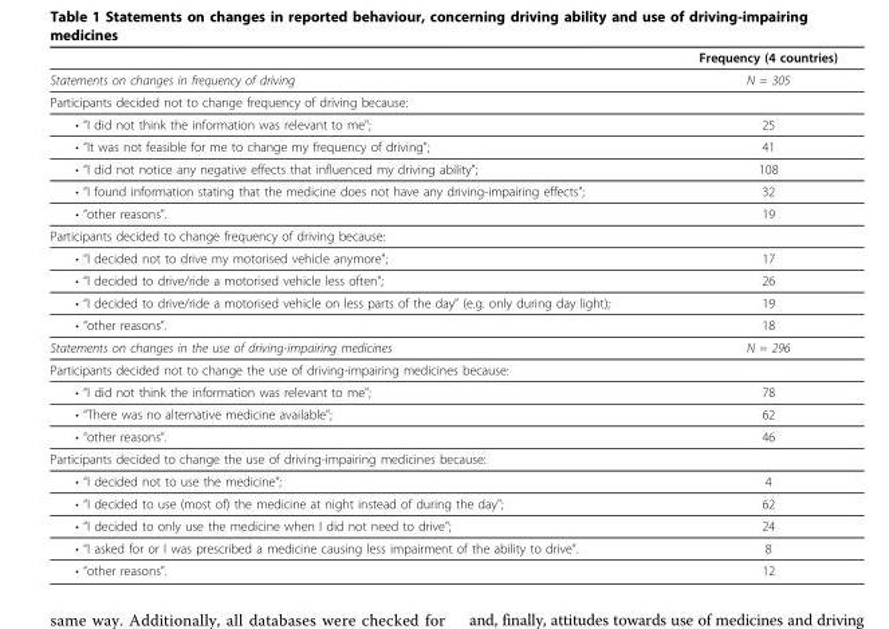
<table><thead><tr><td></td><td>Frequency (4 countries)</td></tr></thead><tbody><tr><td>Statements on changes in frequency of driving</td><td>N = 305</td></tr><tr><td colspan="2">Participants decided not to change frequency of driving because:</td></tr><tr><td>• “I did not think the information was relevant to me&quot;;</td><td>25</td></tr><tr><td>• “It was not feasible for me to change my frequency of driving&quot;;</td><td>41</td></tr><tr><td>• “I did not notice any negative effects that influenced my driving ability&quot;;</td><td>108</td></tr><tr><td>• “I found information stating that the medicine does not have any driving-impairing effects&quot;;</td><td>32</td></tr><tr><td>• “other reasons”.</td><td>19</td></tr><tr><td colspan="2">Participants decided to change frequency of driving because:</td></tr><tr><td>• “I decided not to drive my motorised vehicle anymore&quot;;</td><td>17</td></tr><tr><td>• “I decided to drive/ride a motorised vehicle less often&quot;;</td><td>26</td></tr><tr><td>• “I decided to drive/ride a motorised vehicle on less parts of the day” (e.g. only during day light);</td><td>19</td></tr><tr><td>• “other reasons”.</td><td>18</td></tr><tr><td>Statements on changes in the use of driving-impairing medicines</td><td>N = 296</td></tr><tr><td colspan="2">Participants decided not to change the use of driving-impairing medicines because:</td></tr><tr><td>• “I did not think the information was relevant to me&quot;;</td><td>78</td></tr><tr><td>• “There was no alternative medicine available&quot;;</td><td>62</td></tr><tr><td>• “other reasons”.</td><td>46</td></tr><tr><td colspan="2">Participants decided to change the use of driving-impairing medicines because:</td></tr><tr><td>• “I decided not to use the medicine&quot;;</td><td>4</td></tr><tr><td>• “I decided to use (most of) the medicine at night instead of during the day&quot;;</td><td>62</td></tr><tr><td>• “I decided to only use the medicine when I did not need to drive&quot;;</td><td>24</td></tr><tr><td>• “I asked for or I was prescribed a medicine causing less impairment of the ability to drive”.</td><td>8</td></tr><tr><td>• “other reasons”.</td><td>12</td></tr></tbody></table>